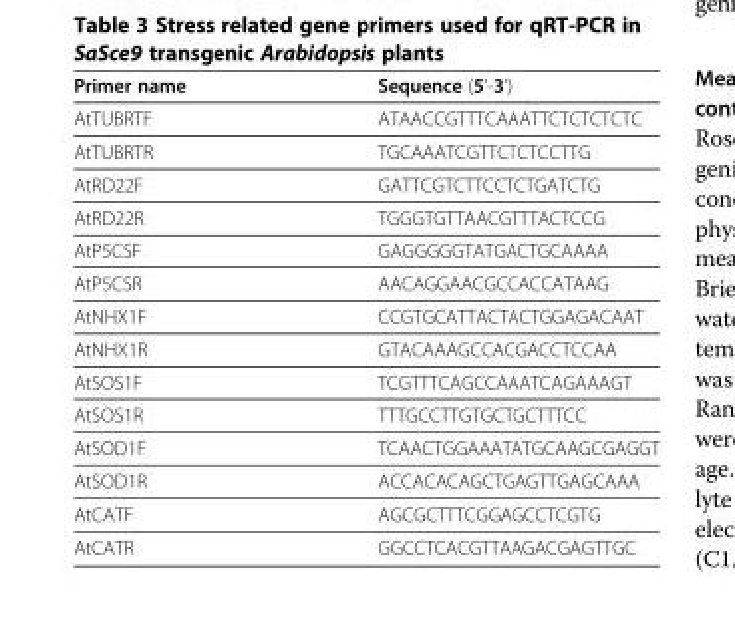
<table><thead><tr><td>Primer name</td><td>Sequence (5’-3’)</td></tr></thead><tbody><tr><td>AtTUBRTF</td><td>ATAACCGTTTCAAATTCTCTCTCTC</td></tr><tr><td>AtTUBRTR</td><td>TGCAAATCGTTCTCTCCTTG</td></tr><tr><td>AtRD22F</td><td>GATTCGTCTTCCTCTGATCTG</td></tr><tr><td>AtRD22R</td><td>TGGGTGTTAACGTTTACTCCG</td></tr><tr><td>AtP5CSF</td><td>GAGGGGGTATGACTGCAAAA</td></tr><tr><td>AtP5CSR</td><td>AACAGGAACGCCACCATAAG</td></tr><tr><td>AtNHX1F</td><td>CCGTGCATTACTACTGGAGACAAT</td></tr><tr><td>AtNHX1R</td><td>GTACAAAGCCACGACCTCCAA</td></tr><tr><td>AtSOS1F</td><td>TCGTTTCAGCCAAATCAGAAAGT</td></tr><tr><td>AtSOS1R</td><td>TTTGCCTTGTGCTGCTTTCC</td></tr><tr><td>AtSOD1F</td><td>TCAACTGGAAATATGCAAGCGAGGT</td></tr><tr><td>AtSOD1R</td><td>ACCACACAGCTGAGTTGAGCAAA</td></tr><tr><td>AtCATF</td><td>AGCGCTTTCGGAGCCTCGTG</td></tr><tr><td>AtCATR</td><td>GGCCTCACGTTAAGACGAGTTGC</td></tr></tbody></table>